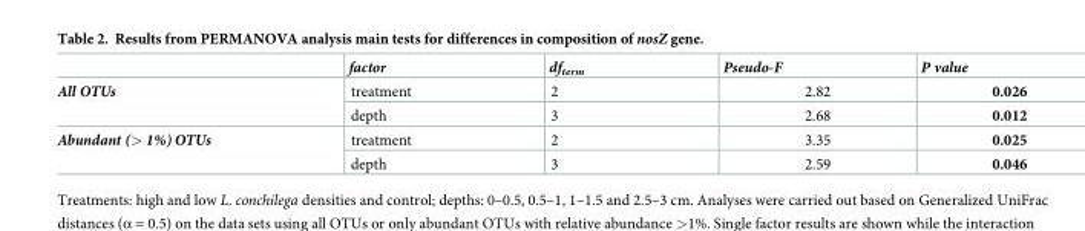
<table><thead><tr><td></td><td>factor</td><td>df<sub>term</sub></td><td>Pseudo-F</td><td>P value</td></tr></thead><tbody><tr><td rowspan="2">All OTUs</td><td>treatment</td><td>2</td><td>2.82</td><td>0.026</td></tr><tr><td>depth</td><td>3</td><td>2.68</td><td>0.012</td></tr><tr><td rowspan="2">Abundant (&gt; 1%) OTUs</td><td>treatment</td><td>2</td><td>3.35</td><td>0.025</td></tr><tr><td>depth</td><td>3</td><td>2.59</td><td>0.046</td></tr></tbody></table>